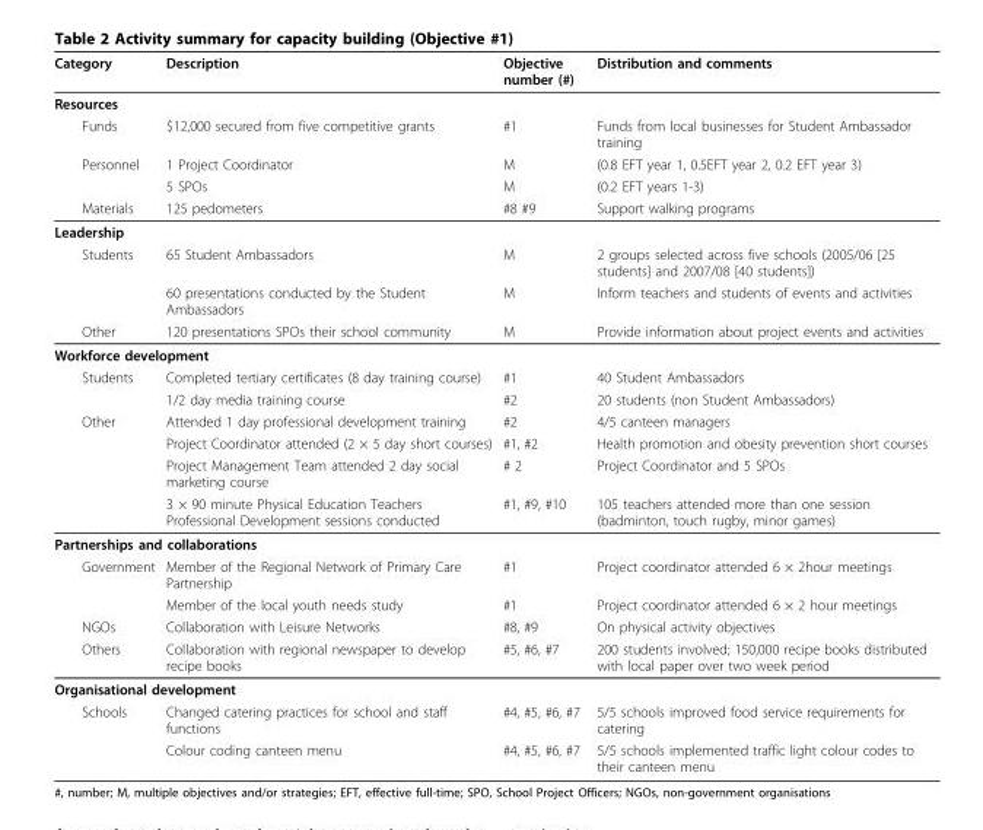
<table><thead><tr><td>Category</td><td>Description</td><td>Objective number (#)</td><td>Distribution and comments</td></tr></thead><tbody><tr><td colspan="4">Resources</td></tr><tr><td>Funds</td><td>$12,000 secured from five competitive grants</td><td>#1</td><td>Funds from local businesses for Student Ambassador training</td></tr><tr><td rowspan="2">Personnel</td><td>1 Project Coordinator</td><td>M</td><td>(0.8 EFT year 1, 0.5EFT year 2, 0.2 EFT year 3)</td></tr><tr><td>5 SPOs</td><td>M</td><td>(0.2 EFT years 1-3)</td></tr><tr><td>Materials</td><td>125 pedometers</td><td>#8 #9</td><td>Support walking programs</td></tr><tr><td colspan="4">Leadership</td></tr><tr><td rowspan="2">Students</td><td>65 Student Ambassadors</td><td>M</td><td>2 groups selected across five schools (2005/06 [25 students] and 2007/08 [40 students])</td></tr><tr><td>60 presentations conducted by the Student Ambassadors</td><td>M</td><td>Inform teachers and students of events and activities</td></tr><tr><td>Other</td><td>120 presentations SPOs their school community</td><td>M</td><td>Provide information about project events and activities</td></tr><tr><td colspan="4">Workforce development</td></tr><tr><td rowspan="2">Students</td><td>Completed tertiary certificates (8 day training course)</td><td>#1</td><td>40 Student Ambassadors</td></tr><tr><td>1/2 day media training course</td><td>#2</td><td>20 students (non Student Ambassadors)</td></tr><tr><td rowspan="4">Other</td><td>Attended 1 day professional development training</td><td>#2</td><td>4/5 canteen managers</td></tr><tr><td>Project Coordinator attended (2 × 5 day short courses)</td><td>#1, #2</td><td>Health promotion and obesity prevention short courses</td></tr><tr><td>Project Management Team attended 2 day social marketing course</td><td># 2</td><td>Project Coordinator and 5 SPOs</td></tr><tr><td>3 × 90 minute Physical Education Teachers Professional Development sessions conducted</td><td>#1, #9, #10</td><td>105 teachers attended more than one session (badminton, touch rugby, minor games)</td></tr><tr><td colspan="4">Partnerships and collaborations</td></tr><tr><td rowspan="2">Government</td><td>Member of the Regional Network of Primary Care Partnership</td><td>#1</td><td>Project coordinator attended 6 × 2hour meetings</td></tr><tr><td>Member of the local youth needs study</td><td>#1</td><td>Project coordinator attended 6 × 2 hour meetings</td></tr><tr><td>NGOs</td><td>Collaboration with Leisure Networks</td><td>#8, #9</td><td>On physical activity objectives</td></tr><tr><td>Others</td><td>Collaboration with regional newspaper to develop recipe books</td><td>#5, #6, #7</td><td>200 students involved; 150,000 recipe books distributed with local paper over two week period</td></tr><tr><td colspan="4">Organisational development</td></tr><tr><td rowspan="2">Schools</td><td>Changed catering practices for school and staff functions</td><td>#4, #5, #6, #7</td><td>5/5 schools improved food service requirements for catering</td></tr><tr><td>Colour coding canteen menu</td><td>#4, #5, #6, #7</td><td>5/5 schools implemented traffic light colour codes to their canteen menu</td></tr></tbody></table>